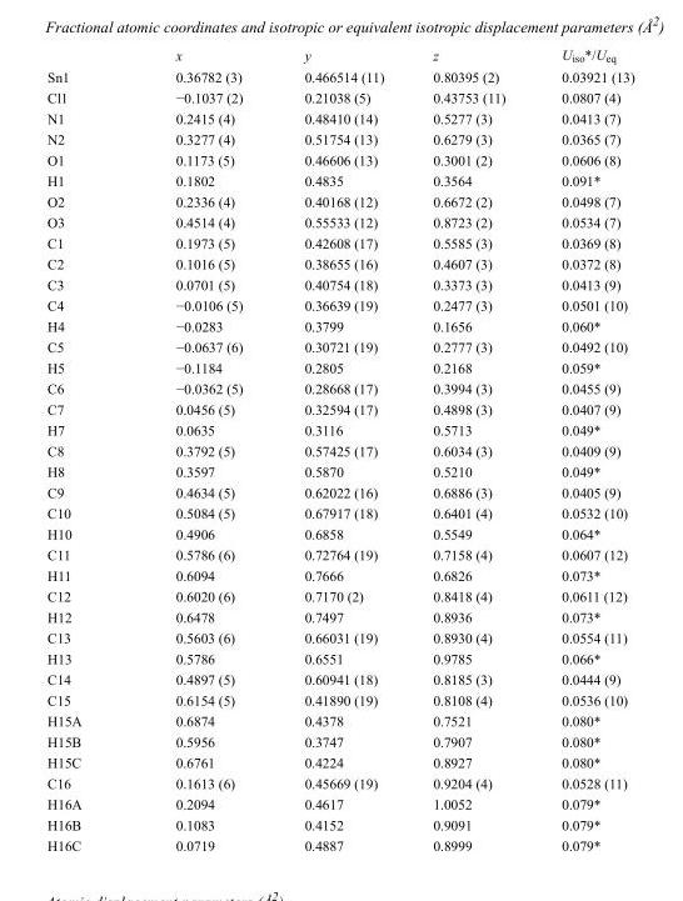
<table><thead><tr><td></td><td>x</td><td>y</td><td>z</td><td>U<sub>iso</sub>*/U<sub>eq</sub></td></tr></thead><tbody><tr><td>Sn1</td><td>0.36782 (3)</td><td>0.466514 (11)</td><td>0.80395 (2)</td><td>0.03921 (13)</td></tr><tr><td>Cl1</td><td>−0.1037 (2)</td><td>0.21038 (5)</td><td>0.43753 (11)</td><td>0.0807 (4)</td></tr><tr><td>N1</td><td>0.2415 (4)</td><td>0.48410 (14)</td><td>0.5277 (3)</td><td>0.0413 (7)</td></tr><tr><td>N2</td><td>0.3277 (4)</td><td>0.51754 (13)</td><td>0.6279 (3)</td><td>0.0365 (7)</td></tr><tr><td>O1</td><td>0.1173 (5)</td><td>0.46606 (13)</td><td>0.3001 (2)</td><td>0.0606 (8)</td></tr><tr><td>H1</td><td>0.1802</td><td>0.4835</td><td>0.3564</td><td>0.091*</td></tr><tr><td>O2</td><td>0.2336 (4)</td><td>0.40168 (12)</td><td>0.6672 (2)</td><td>0.0498 (7)</td></tr><tr><td>O3</td><td>0.4514 (4)</td><td>0.55533 (12)</td><td>0.8723 (2)</td><td>0.0534 (7)</td></tr><tr><td>C1</td><td>0.1973 (5)</td><td>0.42608 (17)</td><td>0.5585 (3)</td><td>0.0369 (8)</td></tr><tr><td>C2</td><td>0.1016 (5)</td><td>0.38655 (16)</td><td>0.4607 (3)</td><td>0.0372 (8)</td></tr><tr><td>C3</td><td>0.0701 (5)</td><td>0.40754 (18)</td><td>0.3373 (3)</td><td>0.0413 (9)</td></tr><tr><td>C4</td><td>−0.0106 (5)</td><td>0.36639 (19)</td><td>0.2477 (3)</td><td>0.0501 (10)</td></tr><tr><td>H4</td><td>−0.0283</td><td>0.3799</td><td>0.1656</td><td>0.060*</td></tr><tr><td>C5</td><td>−0.0637 (6)</td><td>0.30721 (19)</td><td>0.2777 (3)</td><td>0.0492 (10)</td></tr><tr><td>H5</td><td>−0.1184</td><td>0.2805</td><td>0.2168</td><td>0.059*</td></tr><tr><td>C6</td><td>−0.0362 (5)</td><td>0.28668 (17)</td><td>0.3994 (3)</td><td>0.0455 (9)</td></tr><tr><td>C7</td><td>0.0456 (5)</td><td>0.32594 (17)</td><td>0.4898 (3)</td><td>0.0407 (9)</td></tr><tr><td>H7</td><td>0.0635</td><td>0.3116</td><td>0.5713</td><td>0.049*</td></tr><tr><td>C8</td><td>0.3792 (5)</td><td>0.57425 (17)</td><td>0.6034 (3)</td><td>0.0409 (9)</td></tr><tr><td>H8</td><td>0.3597</td><td>0.5870</td><td>0.5210</td><td>0.049*</td></tr><tr><td>C9</td><td>0.4634 (5)</td><td>0.62022 (16)</td><td>0.6886 (3)</td><td>0.0405 (9)</td></tr><tr><td>C10</td><td>0.5084 (5)</td><td>0.67917 (18)</td><td>0.6401 (4)</td><td>0.0532 (10)</td></tr><tr><td>H10</td><td>0.4906</td><td>0.6858</td><td>0.5549</td><td>0.064*</td></tr><tr><td>C11</td><td>0.5786 (6)</td><td>0.72764 (19)</td><td>0.7158 (4)</td><td>0.0607 (12)</td></tr><tr><td>H11</td><td>0.6094</td><td>0.7666</td><td>0.6826</td><td>0.073*</td></tr><tr><td>C12</td><td>0.6020 (6)</td><td>0.7170 (2)</td><td>0.8418 (4)</td><td>0.0611 (12)</td></tr><tr><td>H12</td><td>0.6478</td><td>0.7497</td><td>0.8936</td><td>0.073*</td></tr><tr><td>C13</td><td>0.5603 (6)</td><td>0.66031 (19)</td><td>0.8930 (4)</td><td>0.0554 (11)</td></tr><tr><td>H13</td><td>0.5786</td><td>0.6551</td><td>0.9785</td><td>0.066*</td></tr><tr><td>C14</td><td>0.4897 (5)</td><td>0.60941 (18)</td><td>0.8185 (3)</td><td>0.0444 (9)</td></tr><tr><td>C15</td><td>0.6154 (5)</td><td>0.41890 (19)</td><td>0.8108 (4)</td><td>0.0536 (10)</td></tr><tr><td>H15A</td><td>0.6874</td><td>0.4378</td><td>0.7521</td><td>0.080*</td></tr><tr><td>H15B</td><td>0.5956</td><td>0.3747</td><td>0.7907</td><td>0.080*</td></tr><tr><td>H15C</td><td>0.6761</td><td>0.4224</td><td>0.8927</td><td>0.080*</td></tr><tr><td>C16</td><td>0.1613 (6)</td><td>0.45669 (19)</td><td>0.9204 (4)</td><td>0.0528 (11)</td></tr><tr><td>H16A</td><td>0.2094</td><td>0.4617</td><td>1.0052</td><td>0.079*</td></tr><tr><td>H16B</td><td>0.1083</td><td>0.4152</td><td>0.9091</td><td>0.079*</td></tr><tr><td>H16C</td><td>0.0719</td><td>0.4887</td><td>0.8999</td><td>0.079*</td></tr></tbody></table>